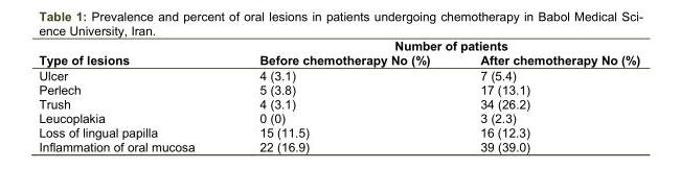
<table><thead><tr><td rowspan="2">Type of lesions</td><td colspan="2">Number of patients</td></tr><tr><td>Before chemotherapy No (%)</td><td>After chemotherapy No (%)</td></tr></thead><tbody><tr><td>Ulcer</td><td>4 (3.1)</td><td>7 (5.4)</td></tr><tr><td>Perlech</td><td>5 (3.8)</td><td>17 (13.1)</td></tr><tr><td>Trush</td><td>4 (3.1)</td><td>34 (26.2)</td></tr><tr><td>Leucoplakia</td><td>0 (0)</td><td>3 (2.3)</td></tr><tr><td>Loss of lingual papilla</td><td>15 (11.5)</td><td>16 (12.3)</td></tr><tr><td>Inflammation of oral mucosa</td><td>22 (16.9)</td><td>39 (39.0)</td></tr></tbody></table>